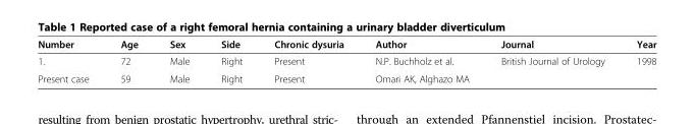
<table><thead><tr><td>Number</td><td>Age</td><td>Sex</td><td>Side</td><td>Chronic dysuria</td><td>Author</td><td>Journal</td><td>Year</td></tr></thead><tbody><tr><td>1.</td><td>72</td><td>Male</td><td>Right</td><td>Present</td><td>N.P. Buchholz et al.</td><td>British Journal of Urology</td><td>1998</td></tr><tr><td>Present case</td><td>59</td><td>Male</td><td>Right</td><td>Present</td><td>Omari AK, Alghazo MA</td><td></td><td></td></tr></tbody></table>